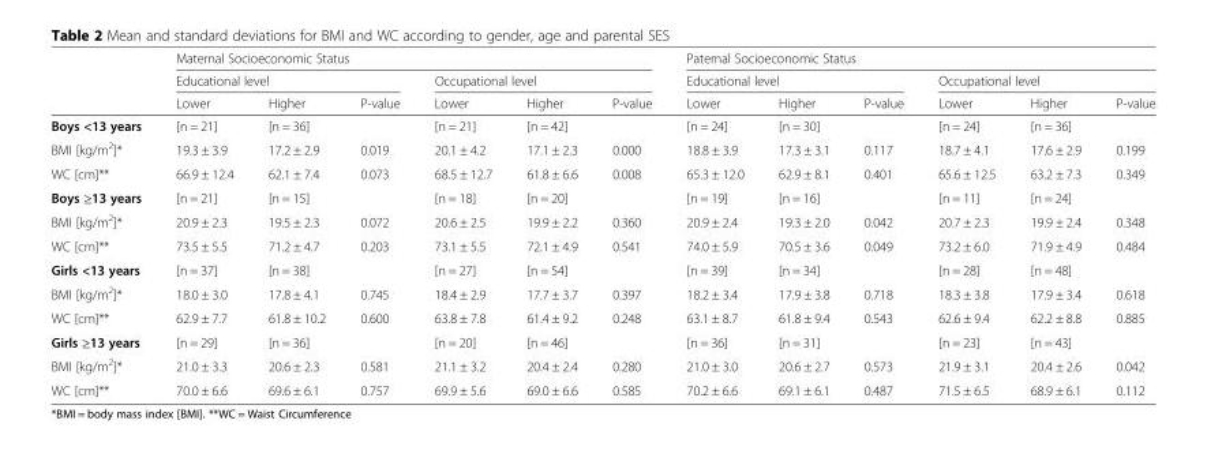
<table><thead><tr><td rowspan="3"></td><td colspan="6">Maternal Socioeconomic Status</td><td colspan="6">Paternal Socioeconomic Status</td></tr><tr><td colspan="3">Educational level</td><td colspan="3">Occupational level</td><td colspan="3">Educational level</td><td colspan="3">Occupational level</td></tr><tr><td>Lower</td><td>Higher</td><td>P-value</td><td>Lower</td><td>Higher</td><td>P-value</td><td>Lower</td><td>Higher</td><td>P-value</td><td>Lower</td><td>Higher</td><td>P-value</td></tr></thead><tbody><tr><td>Boys &lt;13 years</td><td>[n = 21]</td><td>[n = 36]</td><td></td><td>[n = 21]</td><td>[n = 42]</td><td></td><td>[n = 24]</td><td>[n = 30]</td><td></td><td>[n = 24]</td><td>[n = 36]</td><td></td></tr><tr><td>BMI [kg/m<sup>2</sup>]*</td><td>19.3 ± 3.9</td><td>17.2 ± 2.9</td><td>0.019</td><td>20.1 ± 4.2</td><td>17.1 ± 2.3</td><td>0.000</td><td>18.8 ± 3.9</td><td>17.3 ± 3.1</td><td>0.117</td><td>18.7 ± 4.1</td><td>17.6 ± 2.9</td><td>0.199</td></tr><tr><td>WC [cm]**</td><td>66.9 ± 12.4</td><td>62.1 ± 7.4</td><td>0.073</td><td>68.5 ± 12.7</td><td>61.8 ± 6.6</td><td>0.008</td><td>65.3 ± 12.0</td><td>62.9 ± 8.1</td><td>0.401</td><td>65.6 ± 12.5</td><td>63.2 ± 7.3</td><td>0.349</td></tr><tr><td>Boys ≥13 years</td><td>[n = 21]</td><td>[n = 15]</td><td></td><td>[n = 18]</td><td>[n = 20]</td><td></td><td>[n = 19]</td><td>[n = 16]</td><td></td><td>[n = 11]</td><td>[n = 24]</td><td></td></tr><tr><td>BMI [kg/m<sup>2</sup>]*</td><td>20.9 ± 2.3</td><td>19.5 ± 2.3</td><td>0.072</td><td>20.6 ± 2.5</td><td>19.9 ± 2.2</td><td>0.360</td><td>20.9 ± 2.4</td><td>19.3 ± 2.0</td><td>0.042</td><td>20.7 ± 2.3</td><td>19.9 ± 2.4</td><td>0.348</td></tr><tr><td>WC [cm]**</td><td>73.5 ± 5.5</td><td>71.2 ± 4.7</td><td>0.203</td><td>73.1 ± 5.5</td><td>72.1 ± 4.9</td><td>0.541</td><td>74.0 ± 5.9</td><td>70.5 ± 3.6</td><td>0.049</td><td>73.2 ± 6.0</td><td>71.9 ± 4.9</td><td>0.484</td></tr><tr><td>Girls &lt;13 years</td><td>[n = 37]</td><td>[n = 38]</td><td></td><td>[n = 27]</td><td>[n = 54]</td><td></td><td>[n = 39]</td><td>[n = 34]</td><td></td><td>[n = 28]</td><td>[n = 48]</td><td></td></tr><tr><td>BMI [kg/m<sup>2</sup>]*</td><td>18.0 ± 3.0</td><td>17.8 ± 4.1</td><td>0.745</td><td>18.4 ± 2.9</td><td>17.7 ± 3.7</td><td>0.397</td><td>18.2 ± 3.4</td><td>17.9 ± 3.8</td><td>0.718</td><td>18.3 ± 3.8</td><td>17.9 ± 3.4</td><td>0.618</td></tr><tr><td>WC [cm]**</td><td>62.9 ± 7.7</td><td>61.8 ± 10.2</td><td>0.600</td><td>63.8 ± 7.8</td><td>61.4 ± 9.2</td><td>0.248</td><td>63.1 ± 8.7</td><td>61.8 ± 9.4</td><td>0.543</td><td>62.6 ± 9.4</td><td>62.2 ± 8.8</td><td>0.885</td></tr><tr><td>Girls ≥13 years</td><td>[n = 29]</td><td>[n = 36]</td><td></td><td>[n = 20]</td><td>[n = 46]</td><td></td><td>[n = 36]</td><td>[n = 31]</td><td></td><td>[n = 23]</td><td>[n = 43]</td><td></td></tr><tr><td>BMI [kg/m<sup>2</sup>]*</td><td>21.0 ± 3.3</td><td>20.6 ± 2.3</td><td>0.581</td><td>21.1 ± 3.2</td><td>20.4 ± 2.4</td><td>0.280</td><td>21.0 ± 3.0</td><td>20.6 ± 2.7</td><td>0.573</td><td>21.9 ± 3.1</td><td>20.4 ± 2.6</td><td>0.042</td></tr><tr><td>WC [cm]**</td><td>70.0 ± 6.6</td><td>69.6 ± 6.1</td><td>0.757</td><td>69.9 ± 5.6</td><td>69.0 ± 6.6</td><td>0.585</td><td>70.2 ± 6.6</td><td>69.1 ± 6.1</td><td>0.487</td><td>71.5 ± 6.5</td><td>68.9 ± 6.1</td><td>0.112</td></tr></tbody></table>